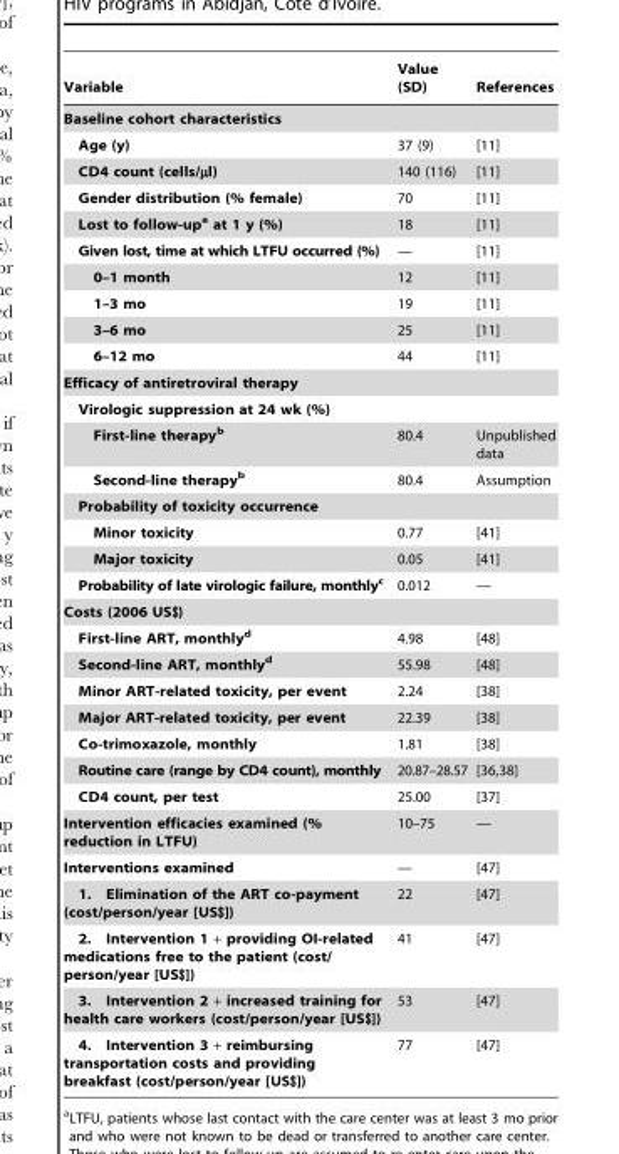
<table><thead><tr><td>Variable</td><td>Value (SD)</td><td>References</td></tr></thead><tbody><tr><td colspan="3">Baseline cohort characteristics</td></tr><tr><td>Age (y)</td><td>37 (9)</td><td>[11]</td></tr><tr><td>CD4 count (cells/µl)</td><td>140 (116)</td><td>[11]</td></tr><tr><td>Gender distribution (% female)</td><td>70</td><td>[11]</td></tr><tr><td>Lost to follow-upa at 1 y (%)</td><td>18</td><td>[11]</td></tr><tr><td>Given lost, time at which LTFU occurred (%)</td><td>—</td><td>[11]</td></tr><tr><td>0–1 month</td><td>12</td><td>[11]</td></tr><tr><td>1–3 mo</td><td>19</td><td>[11]</td></tr><tr><td>3–6 mo</td><td>25</td><td>[11]</td></tr><tr><td>6–12 mo</td><td>44</td><td>[11]</td></tr><tr><td colspan="3">Efficacy of antiretroviral therapy</td></tr><tr><td colspan="3">Virologic suppression at 24 wk (%)</td></tr><tr><td>First-line therapyb</td><td>80.4</td><td>Unpublished data</td></tr><tr><td>Second-line therapyb</td><td>80.4</td><td>Assumption</td></tr><tr><td colspan="3">Probability of toxicity occurrence</td></tr><tr><td>Minor toxicity</td><td>0.77</td><td>[41]</td></tr><tr><td>Major toxicity</td><td>0.05</td><td>[41]</td></tr><tr><td>Probability of late virologic failure, monthlyc</td><td>0.012</td><td>—</td></tr><tr><td colspan="3">Costs (2006 US$)</td></tr><tr><td>First-line ART, monthlyd</td><td>4.98</td><td>[48]</td></tr><tr><td>Second-line ART, monthlyd</td><td>55.98</td><td>[48]</td></tr><tr><td>Minor ART-related toxicity, per event</td><td>2.24</td><td>[38]</td></tr><tr><td>Major ART-related toxicity, per event</td><td>22.39</td><td>[38]</td></tr><tr><td>Co-trimoxazole, monthly</td><td>1.81</td><td>[38]</td></tr><tr><td>Routine care (range by CD4 count), monthly</td><td>20.87–28.57</td><td>[36,38]</td></tr><tr><td>CD4 count, per test</td><td>25.00</td><td>[37]</td></tr><tr><td>Intervention efficacies examined (% reduction in LTFU)</td><td>10–75</td><td>—</td></tr><tr><td>Interventions examined</td><td>—</td><td>[47]</td></tr><tr><td>1. Elimination of the ART co-payment (cost/person/year [US$])</td><td>22</td><td>[47]</td></tr><tr><td>2. Intervention 1 + providing OI-related medications free to the patient (cost/ person/year [US$])</td><td>41</td><td>[47]</td></tr><tr><td>3. Intervention 2 + increased training for health care workers (cost/person/year [US$])</td><td>53</td><td>[47]</td></tr><tr><td>4. Intervention 3 + reimbursing transportation costs and providing breakfast (cost/person/year [US$])</td><td>77</td><td>[47]</td></tr></tbody></table>